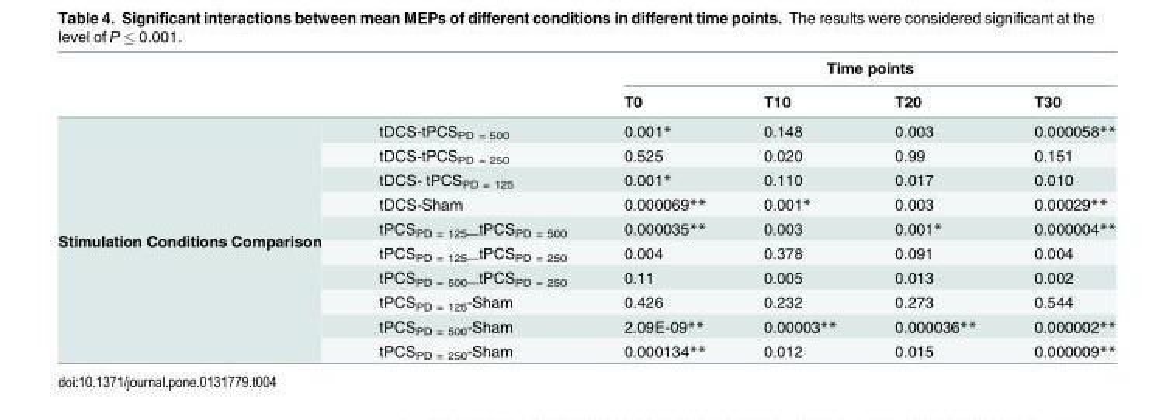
<table><thead><tr><td rowspan="2"></td><td rowspan="2"></td><td colspan="4">Time points</td></tr><tr><td>T0</td><td>T10</td><td>T20</td><td>T30</td></tr></thead><tbody><tr><td rowspan="10">Stimulation Conditions Comparison</td><td>tDCS-tPCS<sub>PD = 500</sub></td><td>0.001*</td><td>0.148</td><td>0.003</td><td>0.000058**</td></tr><tr><td>tDCS-tPCS<sub>PD = 250</sub></td><td>0.525</td><td>0.020</td><td>0.99</td><td>0.151</td></tr><tr><td>tDCS- tPCS<sub>PD = 125</sub></td><td>0.001*</td><td>0.110</td><td>0.017</td><td>0.010</td></tr><tr><td>tDCS-Sham</td><td>0.000069**</td><td>0.001*</td><td>0.003</td><td>0.00029**</td></tr><tr><td>tPCS<sub>PD = 125—</sub>tPCS<sub>PD = 500</sub></td><td>0.000035**</td><td>0.003</td><td>0.001*</td><td>0.000004**</td></tr><tr><td>tPCS<sub>PD = 125—</sub>tPCS<sub>PD = 250</sub></td><td>0.004</td><td>0.378</td><td>0.091</td><td>0.004</td></tr><tr><td>tPCS<sub>PD = 500—</sub>tPCS<sub>PD = 250</sub></td><td>0.11</td><td>0.005</td><td>0.013</td><td>0.002</td></tr><tr><td>tPCS<sub>PD = 125</sub>-Sham</td><td>0.426</td><td>0.232</td><td>0.273</td><td>0.544</td></tr><tr><td>tPCS<sub>PD = 500</sub>-Sham</td><td>2.09E-09**</td><td>0.00003**</td><td>0.000036**</td><td>0.000002**</td></tr><tr><td>tPCS<sub>PD = 250</sub>-Sham</td><td>0.000134**</td><td>0.012</td><td>0.015</td><td>0.000009**</td></tr></tbody></table>